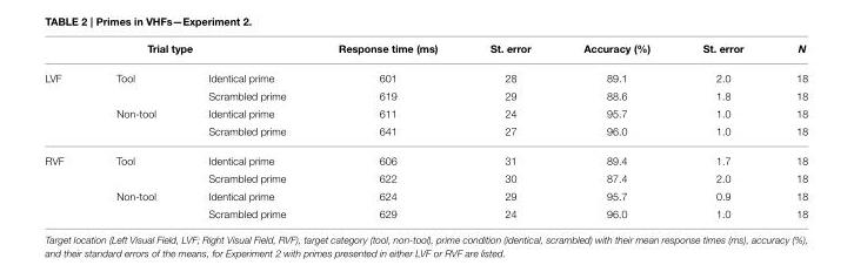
<table><thead><tr><td colspan="3">Trial type</td><td rowspan="2">Response time (ms) 601</td><td rowspan="2">St. error 28</td><td rowspan="2">Accuracy (%) 89.1</td><td rowspan="2">St. error 2.0</td><td rowspan="2">N 18</td></tr><tr><td>LVF</td><td>Tool</td><td>Identical prime</td></tr></thead><tbody><tr><td></td><td></td><td>Scrambled prime</td><td>619</td><td>29</td><td>88.6</td><td>1.8</td><td>18</td></tr><tr><td></td><td>Non-tool</td><td>Identical prime</td><td>611</td><td>24</td><td>95.7</td><td>1.0</td><td>18</td></tr><tr><td></td><td></td><td>Scrambled prime</td><td>641</td><td>27</td><td>96.0</td><td>1.0</td><td>18</td></tr><tr><td rowspan="4">RVF</td><td>Tool</td><td>Identical prime</td><td>606</td><td>31</td><td>89.4</td><td>1.7</td><td>18</td></tr><tr><td></td><td>Scrambled prime</td><td>622</td><td>30</td><td>87.4</td><td>2.0</td><td>18</td></tr><tr><td>Non-tool</td><td>Identical prime</td><td>624</td><td>29</td><td>95.7</td><td>0.9</td><td>18</td></tr><tr><td></td><td>Scrambled prime</td><td>629</td><td>24</td><td>96.0</td><td>1.0</td><td>18</td></tr></tbody></table>